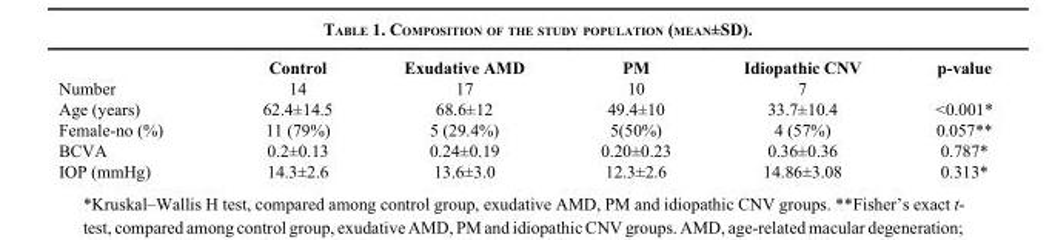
<table><thead><tr><td></td><td>Control</td><td>Exudative AMD</td><td>PM</td><td>Idiopathic CNV</td><td>p-value</td></tr></thead><tbody><tr><td>Number</td><td>14</td><td>17</td><td>10</td><td>7</td><td></td></tr><tr><td>Age (years)</td><td>62.4±14.5</td><td>68.6±12</td><td>49.4±10</td><td>33.7±10.4</td><td>&lt;0.001*</td></tr><tr><td>Female-no (%)</td><td>11 (79%)</td><td>5 (29.4%)</td><td>5(50%)</td><td>4 (57%)</td><td>0.057**</td></tr><tr><td>BCVA</td><td>0.2±0.13</td><td>0.24±0.19</td><td>0.20±0.23</td><td>0.36±0.36</td><td>0.787*</td></tr><tr><td>IOP (mmHg)</td><td>14.3±2.6</td><td>13.6±3.0</td><td>12.3±2.6</td><td>14.86±3.08</td><td>0.313*</td></tr></tbody></table>